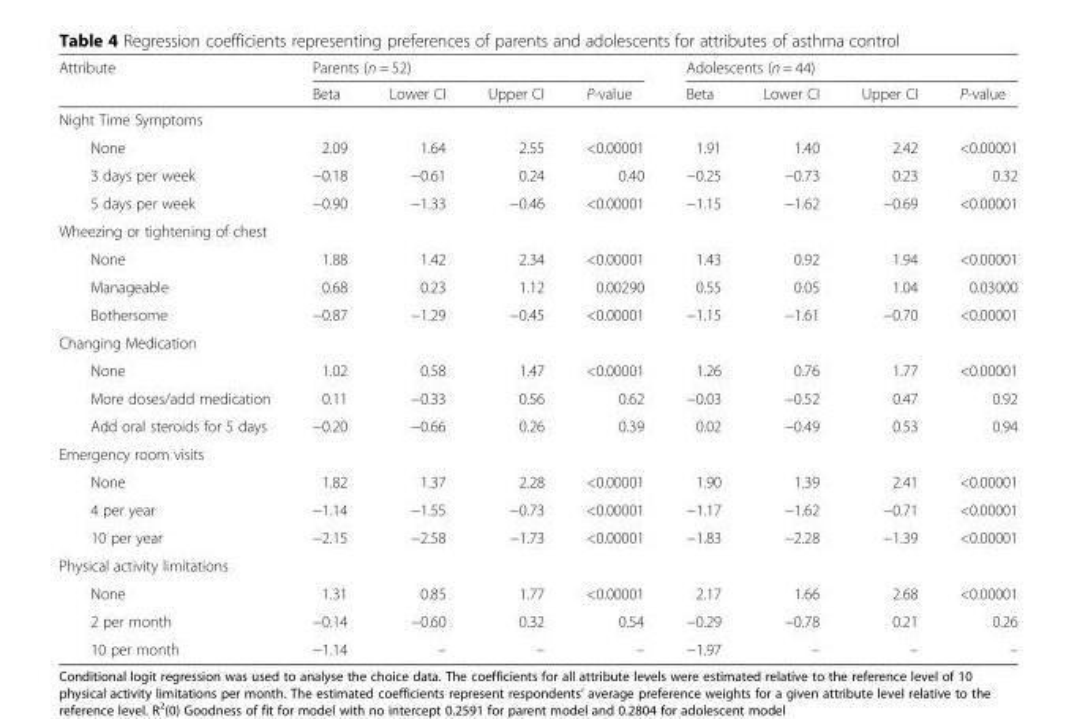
<table><thead><tr><td rowspan="2">Attribute</td><td colspan="4">Parents (n = 52)</td><td colspan="4">Adolescents (n = 44)</td></tr><tr><td>Beta</td><td>Lower CI</td><td>Upper CI</td><td>P-value</td><td>Beta</td><td>Lower CI</td><td>Upper CI</td><td>P-value</td></tr></thead><tbody><tr><td colspan="9">Night Time Symptoms</td></tr><tr><td>None</td><td>2.09</td><td>1.64</td><td>2.55</td><td>&lt;0.00001</td><td>1.91</td><td>1.40</td><td>2.42</td><td>&lt;0.00001</td></tr><tr><td>3 days per week</td><td>−0.18</td><td>−0.61</td><td>0.24</td><td>0.40</td><td>−0.25</td><td>−0.73</td><td>0.23</td><td>0.32</td></tr><tr><td>5 days per week</td><td>−0.90</td><td>−1.33</td><td>−0.46</td><td>&lt;0.00001</td><td>−1.15</td><td>−1.62</td><td>−0.69</td><td>&lt;0.00001</td></tr><tr><td colspan="9">Wheezing or tightening of chest</td></tr><tr><td>None</td><td>1.88</td><td>1.42</td><td>2.34</td><td>&lt;0.00001</td><td>1.43</td><td>0.92</td><td>1.94</td><td>&lt;0.00001</td></tr><tr><td>Manageable</td><td>0.68</td><td>0.23</td><td>1.12</td><td>0.00290</td><td>0.55</td><td>0.05</td><td>1.04</td><td>0.03000</td></tr><tr><td>Bothersome</td><td>−0.87</td><td>−1.29</td><td>−0.45</td><td>&lt;0.00001</td><td>−1.15</td><td>−1.61</td><td>−0.70</td><td>&lt;0.00001</td></tr><tr><td colspan="9">Changing Medication</td></tr><tr><td>None</td><td>1.02</td><td>0.58</td><td>1.47</td><td>&lt;0.00001</td><td>1.26</td><td>0.76</td><td>1.77</td><td>&lt;0.00001</td></tr><tr><td>More doses/add medication</td><td>0.11</td><td>−0.33</td><td>0.56</td><td>0.62</td><td>−0.03</td><td>−0.52</td><td>0.47</td><td>0.92</td></tr><tr><td>Add oral steroids for 5 days</td><td>−0.20</td><td>−0.66</td><td>0.26</td><td>0.39</td><td>0.02</td><td>−0.49</td><td>0.53</td><td>0.94</td></tr><tr><td colspan="9">Emergency room visits</td></tr><tr><td>None</td><td>1.82</td><td>1.37</td><td>2.28</td><td>&lt;0.00001</td><td>1.90</td><td>1.39</td><td>2.41</td><td>&lt;0.00001</td></tr><tr><td>4 per year</td><td>−1.14</td><td>−1.55</td><td>−0.73</td><td>&lt;0.00001</td><td>−1.17</td><td>−1.62</td><td>−0.71</td><td>&lt;0.00001</td></tr><tr><td>10 per year</td><td>−2.15</td><td>−2.58</td><td>−1.73</td><td>&lt;0.00001</td><td>−1.83</td><td>−2.28</td><td>−1.39</td><td>&lt;0.00001</td></tr><tr><td colspan="9">Physical activity limitations</td></tr><tr><td>None</td><td>1.31</td><td>0.85</td><td>1.77</td><td>&lt;0.00001</td><td>2.17</td><td>1.66</td><td>2.68</td><td>&lt;0.00001</td></tr><tr><td>2 per month</td><td>−0.14</td><td>−0.60</td><td>0.32</td><td>0.54</td><td>−0.29</td><td>−0.78</td><td>0.21</td><td>0.26</td></tr><tr><td>10 per month</td><td>−1.14</td><td>–</td><td>–</td><td>–</td><td>−1.97</td><td>–</td><td>–</td><td>–</td></tr></tbody></table>